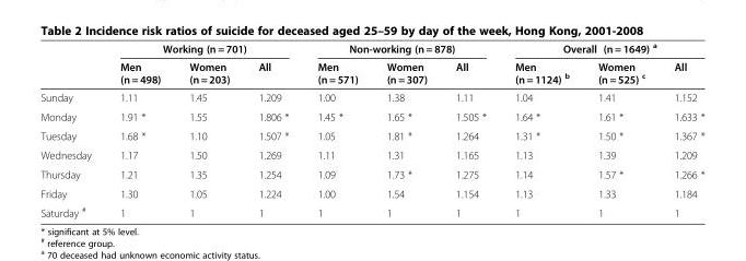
<table><thead><tr><td rowspan="2"></td><td colspan="3">Working (n = 701)</td><td colspan="3">Non-working (n = 878)</td><td colspan="3">Overall (n = 1649) <sup>a</sup></td></tr><tr><td>Men (n = 498)</td><td>Women (n = 203)</td><td>All</td><td>Men (n = 571)</td><td>Women (n = 307)</td><td>All</td><td>Men (n = 1124) <sup>b</sup></td><td>Women (n = 525) <sup>c</sup></td><td>All</td></tr></thead><tbody><tr><td>Sunday</td><td>1.11</td><td>1.45</td><td>1.209</td><td>1.00</td><td>1.38</td><td>1.11</td><td>1.04</td><td>1.41</td><td>1.152</td></tr><tr><td>Monday</td><td>1.91 *</td><td>1.55</td><td>1.806 *</td><td>1.45 *</td><td>1.65 *</td><td>1.505 *</td><td>1.64 *</td><td>1.61 *</td><td>1.633 *</td></tr><tr><td>Tuesday</td><td>1.68 *</td><td>1.10</td><td>1.507 *</td><td>1.05</td><td>1.81 *</td><td>1.264</td><td>1.31 *</td><td>1.50 *</td><td>1.367 *</td></tr><tr><td>Wednesday</td><td>1.17</td><td>1.50</td><td>1.269</td><td>1.11</td><td>1.31</td><td>1.165</td><td>1.13</td><td>1.39</td><td>1.209</td></tr><tr><td>Thursday</td><td>1.21</td><td>1.35</td><td>1.254</td><td>1.09</td><td>1.73 *</td><td>1.275</td><td>1.14</td><td>1.57 *</td><td>1.266 *</td></tr><tr><td>Friday</td><td>1.30</td><td>1.05</td><td>1.224</td><td>1.00</td><td>1.54</td><td>1.154</td><td>1.13</td><td>1.33</td><td>1.184</td></tr><tr><td>Saturday <sup>#</sup></td><td>1</td><td>1</td><td>1</td><td>1</td><td>1</td><td>1</td><td>1</td><td>1</td><td>1</td></tr></tbody></table>